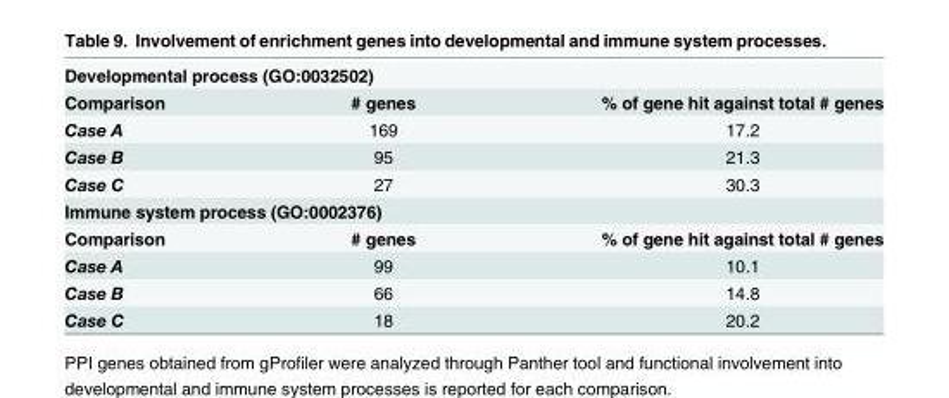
<table><tbody><tr><td colspan="3">Developmental process (GO:0032502)</td></tr><tr><td>Comparison</td><td># genes</td><td>% of gene hit against total # genes</td></tr><tr><td>Case A</td><td>169</td><td>17.2</td></tr><tr><td>Case B</td><td>95</td><td>21.3</td></tr><tr><td>Case C</td><td>27</td><td>30.3</td></tr><tr><td colspan="3">Immune system process (GO:0002376)</td></tr><tr><td>Comparison</td><td># genes</td><td>% of gene hit against total # genes</td></tr><tr><td>Case A</td><td>99</td><td>10.1</td></tr><tr><td>Case B</td><td>66</td><td>14.8</td></tr><tr><td>Case C</td><td>18</td><td>20.2</td></tr></tbody></table>